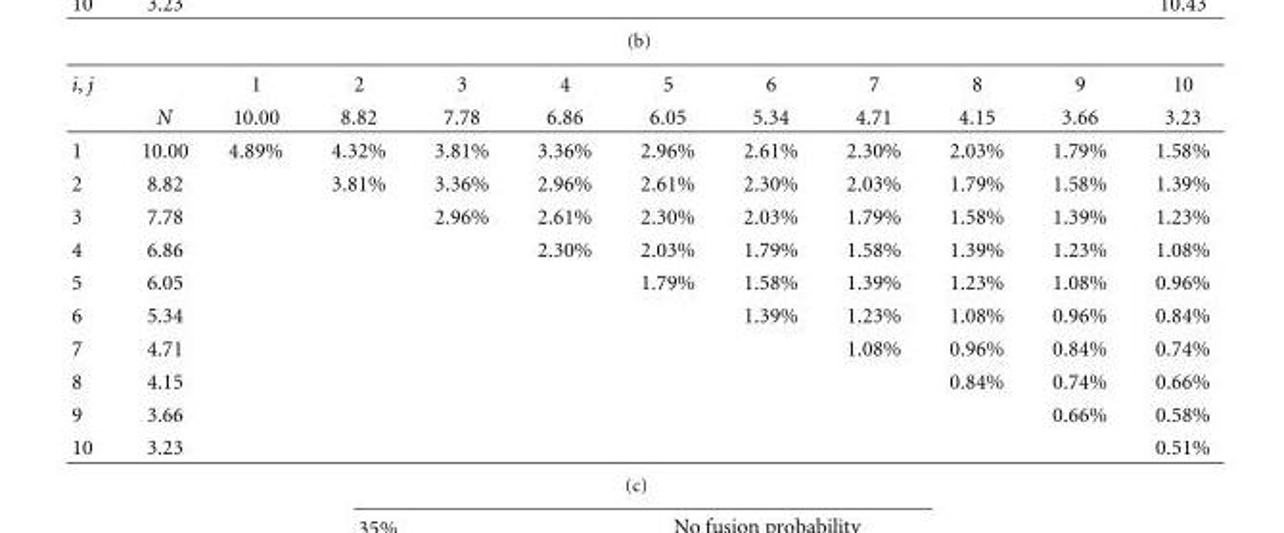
<table><thead><tr><td rowspan="2">i, j</td><td rowspan="2">N</td><td rowspan="2">1 10.00</td><td rowspan="2">2 8.82</td><td rowspan="2">3 7.78</td><td rowspan="2">4 6.86</td><td rowspan="2">5 6.05</td><td rowspan="2">6 5.34</td><td rowspan="2">7 4.71</td><td rowspan="2">8 4.15</td><td rowspan="2">9 3.66</td><td rowspan="2">10 3.23</td></tr><tr></tr></thead><tbody><tr><td>1</td><td>10.00</td><td>4.89%</td><td>4.32%</td><td>3.81%</td><td>3.36%</td><td>2.96%</td><td>2.61%</td><td>2.30%</td><td>2.03%</td><td>1.79%</td><td>1.58%</td></tr><tr><td>2</td><td>8.82</td><td></td><td>3.81%</td><td>3.36%</td><td>2.96%</td><td>2.61%</td><td>2.30%</td><td>2.03%</td><td>1.79%</td><td>1.58%</td><td>1.39%</td></tr><tr><td>3</td><td>7.78</td><td></td><td></td><td>2.96%</td><td>2.61%</td><td>2.30%</td><td>2.03%</td><td>1.79%</td><td>1.58%</td><td>1.39%</td><td>1.23%</td></tr><tr><td>4</td><td>6.86</td><td></td><td></td><td></td><td>2.30%</td><td>2.03%</td><td>1.79%</td><td>1.58%</td><td>1.39%</td><td>1.23%</td><td>1.08%</td></tr><tr><td>5</td><td>6.05</td><td></td><td></td><td></td><td></td><td>1.79%</td><td>1.58%</td><td>1.39%</td><td>1.23%</td><td>1.08%</td><td>0.96%</td></tr><tr><td>6</td><td>5.34</td><td></td><td></td><td></td><td></td><td></td><td>1.39%</td><td>1.23%</td><td>1.08%</td><td>0.96%</td><td>0.84%</td></tr><tr><td>7</td><td>4.71</td><td></td><td></td><td></td><td></td><td></td><td></td><td>1.08%</td><td>0.96%</td><td>0.84%</td><td>0.74%</td></tr><tr><td>8</td><td>4.15</td><td></td><td></td><td></td><td></td><td></td><td></td><td></td><td>0.84%</td><td>0.74%</td><td>0.66%</td></tr><tr><td>9</td><td>3.66</td><td></td><td></td><td></td><td></td><td></td><td></td><td></td><td></td><td>0.66%</td><td>0.58%</td></tr><tr><td>10</td><td>3.23</td><td></td><td></td><td></td><td></td><td></td><td></td><td></td><td></td><td></td><td>0.51%</td></tr></tbody></table>